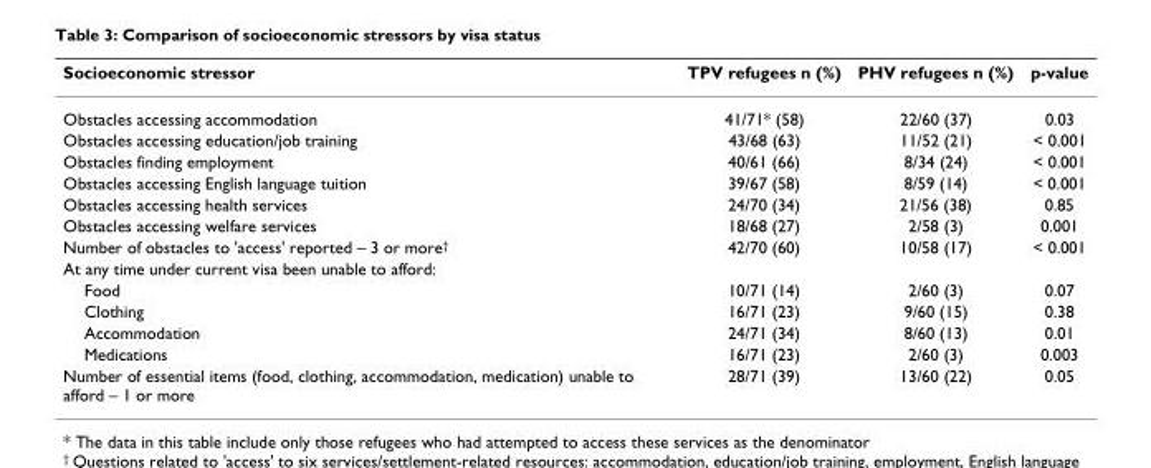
<table><thead><tr><td>Socioeconomic stressor</td><td>TPV refugees n (%)</td><td>PHV refugees n (%)</td><td>p-value</td></tr></thead><tbody><tr><td>Obstacles accessing accommodation</td><td>41/71* (58)</td><td>22/60 (37)</td><td>0.03</td></tr><tr><td>Obstacles accessing education/job training</td><td>43/68 (63)</td><td>11/52 (21)</td><td>&lt; 0.001</td></tr><tr><td>Obstacles finding employment</td><td>40/61 (66)</td><td>8/34 (24)</td><td>&lt; 0.001</td></tr><tr><td>Obstacles accessing English language tuition</td><td>39/67 (58)</td><td>8/59 (14)</td><td>&lt; 0.001</td></tr><tr><td>Obstacles accessing health services</td><td>24/70 (34)</td><td>21/56 (38)</td><td>0.85</td></tr><tr><td>Obstacles accessing welfare services</td><td>18/68 (27)</td><td>2/58 (3)</td><td>0.001</td></tr><tr><td>Number of obstacles to &#x27;access&#x27; reported – 3 or more<sup>†</sup></td><td>42/70 (60)</td><td>10/58 (17)</td><td>&lt; 0.001</td></tr><tr><td colspan="4">At any time under current visa been unable to afford:</td></tr><tr><td>Food</td><td>10/71 (14)</td><td>2/60 (3)</td><td>0.07</td></tr><tr><td>Clothing</td><td>16/71 (23)</td><td>9/60 (15)</td><td>0.38</td></tr><tr><td>Accommodation</td><td>24/71 (34)</td><td>8/60 (13)</td><td>0.01</td></tr><tr><td>Medications</td><td>16/71 (23)</td><td>2/60 (3)</td><td>0.003</td></tr><tr><td>Number of essential items (food, clothing, accommodation, medication) unable to afford – 1 or more</td><td>28/71 (39)</td><td>13/60 (22)</td><td>0.05</td></tr></tbody></table>